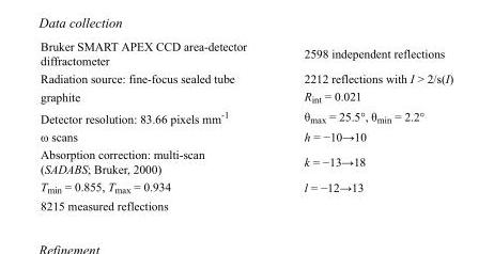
<table><tbody><tr><td>Bruker SMART APEX CCD area-detector diffractometer</td><td>2598 independent reflections</td></tr><tr><td>Radiation source: fine-focus sealed tube</td><td>2212 reflections with I &gt; 2/s(I)</td></tr><tr><td>graphite</td><td>R<sub>int</sub> = 0.021</td></tr><tr><td>Detector resolution: 83.66 pixels mm<sup>-1</sup></td><td>θ<sub>max</sub> = 25.5°, θ<sub>min</sub> = 2.2°</td></tr><tr><td>ω scans</td><td>h = −10→10</td></tr><tr><td>Absorption correction: multi-scan (SADABS; Bruker, 2000)</td><td>k = −13→18</td></tr><tr><td>T<sub>min</sub> = 0.855, T<sub>max</sub> = 0.934</td><td>l = −12→13</td></tr><tr><td>8215 measured reflections</td><td></td></tr></tbody></table>